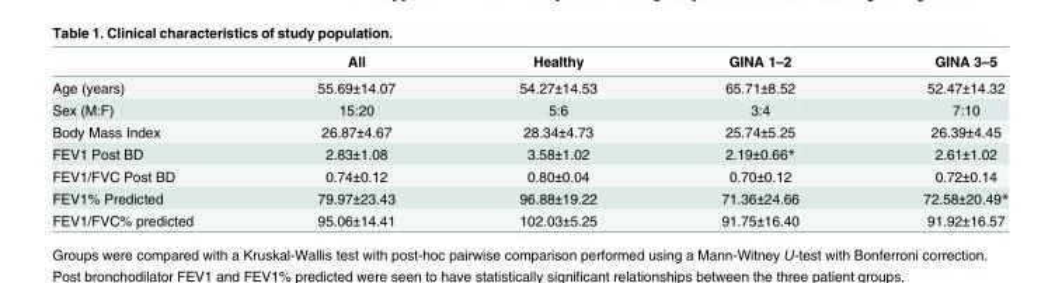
<table><thead><tr><td></td><td>All</td><td>Healthy</td><td>GINA 1–2</td><td>GINA 3–5</td></tr></thead><tbody><tr><td>Age (years)</td><td>55.69±14.07</td><td>54.27±14.53</td><td>65.71±8.52</td><td>52.47±14.32</td></tr><tr><td>Sex (M:F)</td><td>15:20</td><td>5:6</td><td>3:4</td><td>7:10</td></tr><tr><td>Body Mass Index</td><td>26.87±4.67</td><td>28.34±4.73</td><td>25.74±5.25</td><td>26.39±4.45</td></tr><tr><td>FEV1 Post BD</td><td>2.83±1.08</td><td>3.58±1.02</td><td>2.19±0.66*</td><td>2.61±1.02</td></tr><tr><td>FEV1/FVC Post BD</td><td>0.74±0.12</td><td>0.80±0.04</td><td>0.70±0.12</td><td>0.72±0.14</td></tr><tr><td>FEV1% Predicted</td><td>79.97±23.43</td><td>96.88±19.22</td><td>71.36±24.66</td><td>72.58±20.49*</td></tr><tr><td>FEV1/FVC% predicted</td><td>95.06±14.41</td><td>102.03±5.25</td><td>91.75±16.40</td><td>91.92±16.57</td></tr></tbody></table>